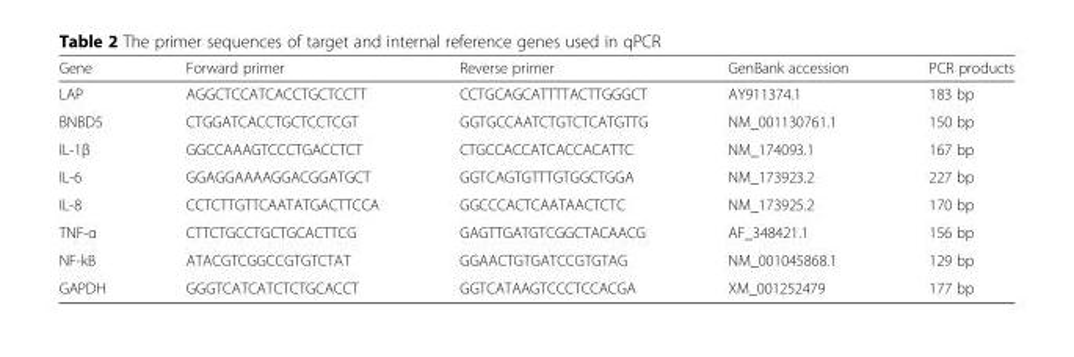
<table><thead><tr><td>Gene</td><td>Forward primer</td><td>Reverse primer</td><td>GenBank accession</td><td>PCR products</td></tr></thead><tbody><tr><td>LAP</td><td>AGGCTCCATCACCTGCTCCTT</td><td>CCTGCAGCATTTTACTTGGGCT</td><td>AY911374.1</td><td>183 bp</td></tr><tr><td>BNBD5</td><td>CTGGATCACCTGCTCCTCGT</td><td>GGTGCCAATCTGTCTCATGTTG</td><td>NM_001130761.1</td><td>150 bp</td></tr><tr><td>IL-1β</td><td>GGCCAAAGTCCCTGACCTCT</td><td>CTGCCACCATCACCACATTC</td><td>NM_174093.1</td><td>167 bp</td></tr><tr><td>IL-6</td><td>GGAGGAAAAGGACGGATGCT</td><td>GGTCAGTGTTTGTGGCTGGA</td><td>NM_173923.2</td><td>227 bp</td></tr><tr><td>IL-8</td><td>CCTCTTGTTCAATATGACTTCCA</td><td>GGCCCACTCAATAACTCTC</td><td>NM_173925.2</td><td>170 bp</td></tr><tr><td>TNF-α</td><td>CTTCTGCCTGCTGCACTTCG</td><td>GAGTTGATGTCGGCTACAACG</td><td>AF_348421.1</td><td>156 bp</td></tr><tr><td>NF-kB</td><td>ATACGTCGGCCGTGTCTAT</td><td>GGAACTGTGATCCGTGTAG</td><td>NM_001045868.1</td><td>129 bp</td></tr><tr><td>GAPDH</td><td>GGGTCATCATCTCTGCACCT</td><td>GGTCATAAGTCCCTCCACGA</td><td>XM_001252479</td><td>177 bp</td></tr></tbody></table>